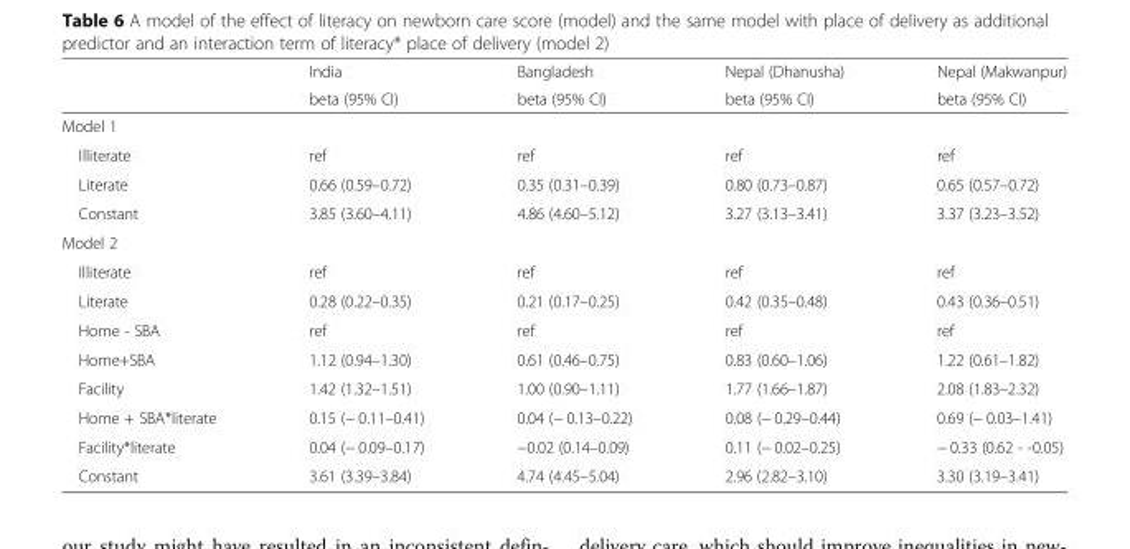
<table><thead><tr><td rowspan="2"></td><td rowspan="2">India beta (95% CI)</td><td rowspan="2">Bangladesh beta (95% CI)</td><td rowspan="2">Nepal (Dhanusha) beta (95% CI)</td><td rowspan="2">Nepal (Makwanpur) beta (95% CI)</td></tr><tr></tr></thead><tbody><tr><td colspan="5">Model 1</td></tr><tr><td>Illiterate</td><td>ref</td><td>ref</td><td>ref</td><td>ref</td></tr><tr><td>Literate</td><td>0.66 (0.59–0.72)</td><td>0.35 (0.31–0.39)</td><td>0.80 (0.73–0.87)</td><td>0.65 (0.57–0.72)</td></tr><tr><td>Constant</td><td>3.85 (3.60–4.11)</td><td>4.86 (4.60–5.12)</td><td>3.27 (3.13–3.41)</td><td>3.37 (3.23–3.52)</td></tr><tr><td colspan="5">Model 2</td></tr><tr><td>Illiterate</td><td>ref</td><td>ref</td><td>ref</td><td>ref</td></tr><tr><td>Literate</td><td>0.28 (0.22–0.35)</td><td>0.21 (0.17–0.25)</td><td>0.42 (0.35–0.48)</td><td>0.43 (0.36–0.51)</td></tr><tr><td>Home - SBA</td><td>ref</td><td>ref</td><td>ref</td><td>ref</td></tr><tr><td>Home+SBA</td><td>1.12 (0.94–1.30)</td><td>0.61 (0.46–0.75)</td><td>0.83 (0.60–1.06)</td><td>1.22 (0.61–1.82)</td></tr><tr><td>Facility</td><td>1.42 (1.32–1.51)</td><td>1.00 (0.90–1.11)</td><td>1.77 (1.66–1.87)</td><td>2.08 (1.83–2.32)</td></tr><tr><td>Home + SBA*literate</td><td>0.15 (− 0.11–0.41)</td><td>0.04 (− 0.13–0.22)</td><td>0.08 (− 0.29–0.44)</td><td>0.69 (− 0.03–1.41)</td></tr><tr><td>Facility*literate</td><td>0.04 (− 0.09–0.17)</td><td>−0.02 (0.14–0.09)</td><td>0.11 (− 0.02–0.25)</td><td>− 0.33 (0.62 - -0.05)</td></tr><tr><td>Constant</td><td>3.61 (3.39–3.84)</td><td>4.74 (4.45–5.04)</td><td>2.96 (2.82–3.10)</td><td>3.30 (3.19–3.41)</td></tr></tbody></table>